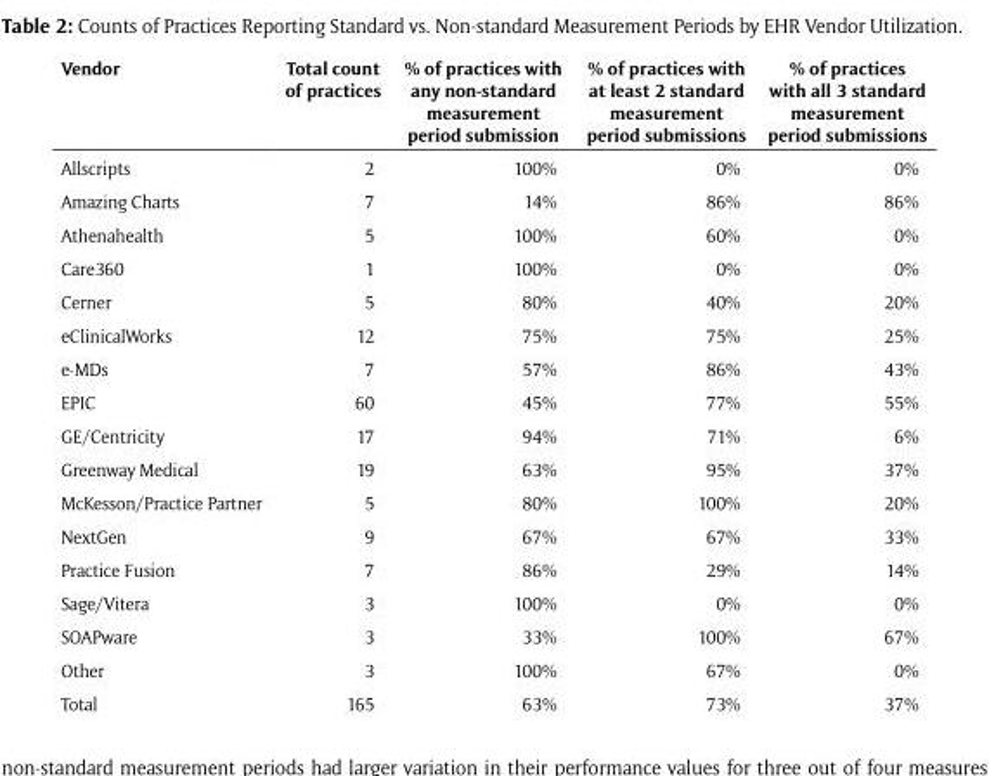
<table><thead><tr><td>Vendor</td><td>Total count of practices</td><td>% of practices with any non-standard measurement period submission</td><td>% of practices with at least 2 standard measurement period submissions</td><td>% of practices with all 3 standard measurement period submissions</td></tr></thead><tbody><tr><td>Allscripts</td><td>2</td><td>100%</td><td>0%</td><td>0%</td></tr><tr><td>Amazing Charts</td><td>7</td><td>14%</td><td>86%</td><td>86%</td></tr><tr><td>Athenahealth</td><td>5</td><td>100%</td><td>60%</td><td>0%</td></tr><tr><td>Care360</td><td>1</td><td>100%</td><td>0%</td><td>0%</td></tr><tr><td>Cerner</td><td>5</td><td>80%</td><td>40%</td><td>20%</td></tr><tr><td>eClinicalWorks</td><td>12</td><td>75%</td><td>75%</td><td>25%</td></tr><tr><td>e-MDs</td><td>7</td><td>57%</td><td>86%</td><td>43%</td></tr><tr><td>EPIC</td><td>60</td><td>45%</td><td>77%</td><td>55%</td></tr><tr><td>GE/Centricity</td><td>17</td><td>94%</td><td>71%</td><td>6%</td></tr><tr><td>Greenway Medical</td><td>19</td><td>63%</td><td>95%</td><td>37%</td></tr><tr><td>McKesson/Practice Partner</td><td>5</td><td>80%</td><td>100%</td><td>20%</td></tr><tr><td>NextGen</td><td>9</td><td>67%</td><td>67%</td><td>33%</td></tr><tr><td>Practice Fusion</td><td>7</td><td>86%</td><td>29%</td><td>14%</td></tr><tr><td>Sage/Vitera</td><td>3</td><td>100%</td><td>0%</td><td>0%</td></tr><tr><td>SOAPware</td><td>3</td><td>33%</td><td>100%</td><td>67%</td></tr><tr><td>Other</td><td>3</td><td>100%</td><td>67%</td><td>0%</td></tr><tr><td>Total</td><td>165</td><td>63%</td><td>73%</td><td>37%</td></tr></tbody></table>